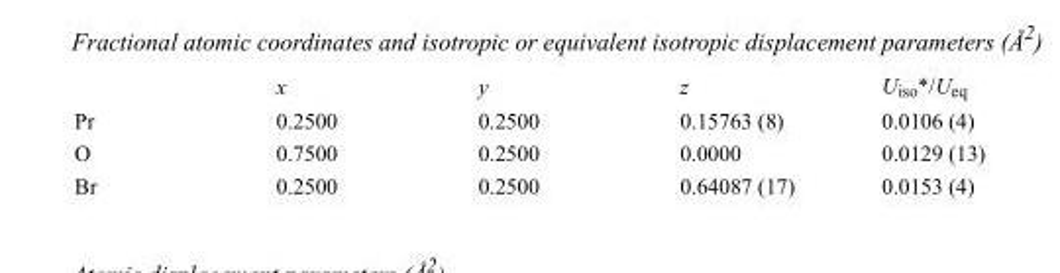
<table><thead><tr><td></td><td>x</td><td>y</td><td>z</td><td>U<sub>iso</sub>*/U<sub>eq</sub></td></tr></thead><tbody><tr><td>Pr</td><td>0.2500</td><td>0.2500</td><td>0.15763 (8)</td><td>0.0106 (4)</td></tr><tr><td>O</td><td>0.7500</td><td>0.2500</td><td>0.0000</td><td>0.0129 (13)</td></tr><tr><td>Br</td><td>0.2500</td><td>0.2500</td><td>0.64087 (17)</td><td>0.0153 (4)</td></tr></tbody></table>